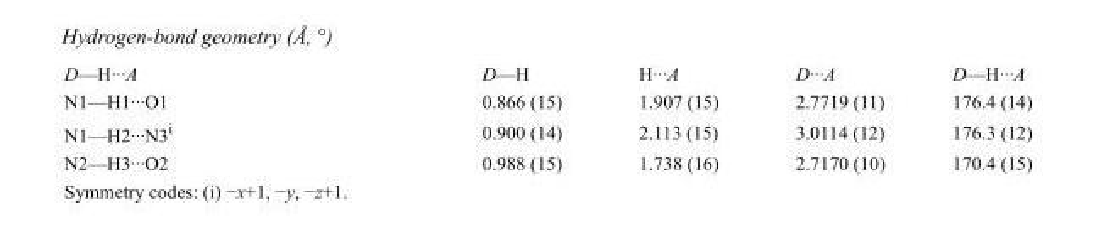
<table><tbody><tr><td>D—H···A</td><td>D—H</td><td>H···A</td><td>D···A</td><td>D—H···A</td></tr><tr><td>N1—H1···O1</td><td>0.866 (15)</td><td>1.907 (15)</td><td>2.7719 (11)</td><td>176.4 (14)</td></tr><tr><td>N1—H2···N3<sup>i</sup></td><td>0.900 (14)</td><td>2.113 (15)</td><td>3.0114 (12)</td><td>176.3 (12)</td></tr><tr><td>N2—H3···O2</td><td>0.988 (15)</td><td>1.738 (16)</td><td>2.7170 (10)</td><td>170.4 (15)</td></tr></tbody></table>